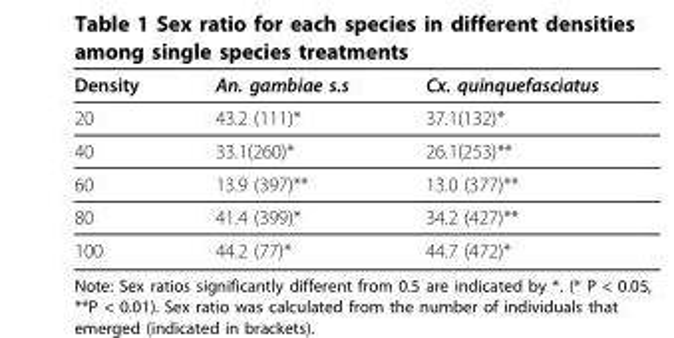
<table><thead><tr><td>Density</td><td>An. gambiae s.s</td><td>Cx. quinquefasciatus</td></tr></thead><tbody><tr><td>20</td><td>43.2 (111)*</td><td>37.1(132)*</td></tr><tr><td>40</td><td>33.1(260)*</td><td>26.1(253)**</td></tr><tr><td>60</td><td>13.9 (397)**</td><td>13.0 (377)**</td></tr><tr><td>80</td><td>41.4 (399)*</td><td>34.2 (427)**</td></tr><tr><td>100</td><td>44.2 (77)*</td><td>44.7 (472)*</td></tr></tbody></table>